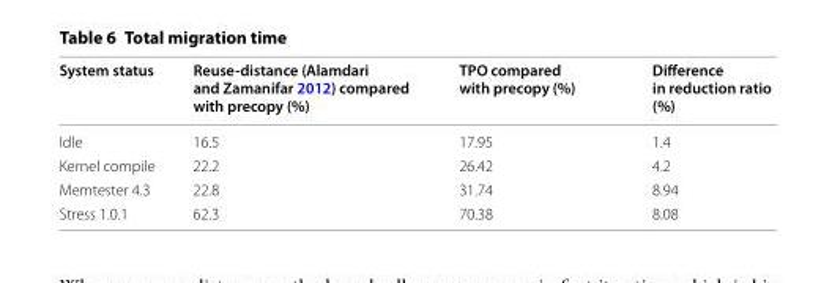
<table><thead><tr><td>System status</td><td>Reuse‑distance (Alamdari and Zamanifar 2012) compared with precopy (%)</td><td>TPO compared with precopy (%)</td><td>Difference in reduction ratio (%)</td></tr></thead><tbody><tr><td>Idle</td><td>16.5</td><td>17.95</td><td>1.4</td></tr><tr><td>Kernel compile</td><td>22.2</td><td>26.42</td><td>4.2</td></tr><tr><td>Memtester 4.3</td><td>22.8</td><td>31.74</td><td>8.94</td></tr><tr><td>Stress 1.0.1</td><td>62.3</td><td>70.38</td><td>8.08</td></tr></tbody></table>